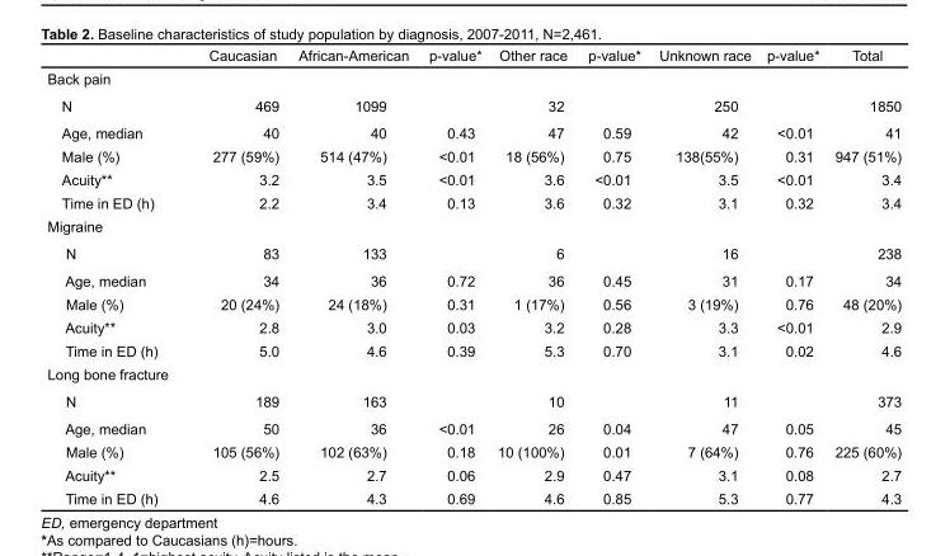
<table><thead><tr><td></td><td>Caucasian</td><td>African-American</td><td>p-value*</td><td>Other race</td><td>p-value*</td><td>Unknown race</td><td>p-value*</td><td>Total</td></tr></thead><tbody><tr><td colspan="9">Back pain</td></tr><tr><td>N</td><td>469</td><td>1099</td><td></td><td>32</td><td></td><td>250</td><td></td><td>1850</td></tr><tr><td>Age, median</td><td>40</td><td>40</td><td>0.43</td><td>47</td><td>0.59</td><td>42</td><td>&lt;0.01</td><td>41</td></tr><tr><td>Male (%)</td><td>277 (59%)</td><td>514 (47%)</td><td>&lt;0.01</td><td>18 (56%)</td><td>0.75</td><td>138(55%)</td><td>0.31</td><td>947 (51%)</td></tr><tr><td>Acuity**</td><td>3.2</td><td>3.5</td><td>&lt;0.01</td><td>3.6</td><td>&lt;0.01</td><td>3.5</td><td>&lt;0.01</td><td>3.4</td></tr><tr><td>Time in ED (h)</td><td>2.2</td><td>3.4</td><td>0.13</td><td>3.6</td><td>0.32</td><td>3.1</td><td>0.32</td><td>3.4</td></tr><tr><td colspan="9">Migraine</td></tr><tr><td>N</td><td>83</td><td>133</td><td></td><td>6</td><td></td><td>16</td><td></td><td>238</td></tr><tr><td>Age, median</td><td>34</td><td>36</td><td>0.72</td><td>36</td><td>0.45</td><td>31</td><td>0.17</td><td>34</td></tr><tr><td>Male (%)</td><td>20 (24%)</td><td>24 (18%)</td><td>0.31</td><td>1 (17%)</td><td>0.56</td><td>3 (19%)</td><td>0.76</td><td>48 (20%)</td></tr><tr><td>Acuity**</td><td>2.8</td><td>3.0</td><td>0.03</td><td>3.2</td><td>0.28</td><td>3.3</td><td>&lt;0.01</td><td>2.9</td></tr><tr><td>Time in ED (h)</td><td>5.0</td><td>4.6</td><td>0.39</td><td>5.3</td><td>0.70</td><td>3.1</td><td>0.02</td><td>4.6</td></tr><tr><td colspan="9">Long bone fracture</td></tr><tr><td>N</td><td>189</td><td>163</td><td></td><td>10</td><td></td><td>11</td><td></td><td>373</td></tr><tr><td>Age, median</td><td>50</td><td>36</td><td>&lt;0.01</td><td>26</td><td>0.04</td><td>47</td><td>0.05</td><td>45</td></tr><tr><td>Male (%)</td><td>105 (56%)</td><td>102 (63%)</td><td>0.18</td><td>10 (100%)</td><td>0.01</td><td>7 (64%)</td><td>0.76</td><td>225 (60%)</td></tr><tr><td>Acuity**</td><td>2.5</td><td>2.7</td><td>0.06</td><td>2.9</td><td>0.47</td><td>3.1</td><td>0.08</td><td>2.7</td></tr><tr><td>Time in ED (h)</td><td>4.6</td><td>4.3</td><td>0.69</td><td>4.6</td><td>0.85</td><td>5.3</td><td>0.77</td><td>4.3</td></tr></tbody></table>